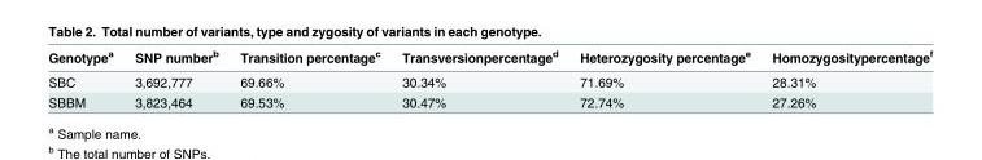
<table><thead><tr><td>Genotype<sup>a</sup></td><td>SNP number<sup>b</sup></td><td>Transition percentage<sup>c</sup></td><td>Transversionpercentage<sup>d</sup></td><td>Heterozygosity percentage<sup>e</sup></td><td>Homozygositypercentage<sup>f</sup></td></tr></thead><tbody><tr><td>SBC</td><td>3,692,777</td><td>69.66%</td><td>30.34%</td><td>71.69%</td><td>28.31%</td></tr><tr><td>SBBM</td><td>3,823,464</td><td>69.53%</td><td>30.47%</td><td>72.74%</td><td>27.26%</td></tr></tbody></table>